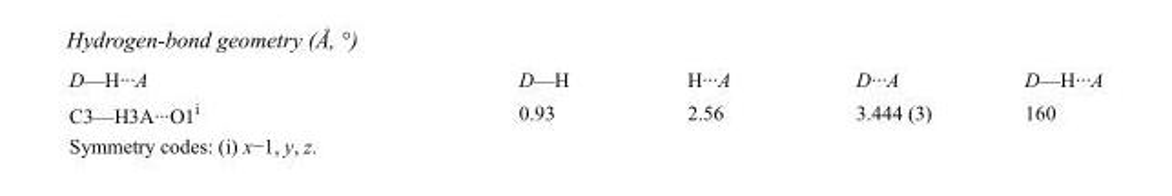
<table><tbody><tr><td>D—H···A</td><td>D—H</td><td>H···A</td><td>D···A</td><td>D—H···A</td></tr><tr><td>C3—H3A···O1<sup>i</sup></td><td>0.93</td><td>2.56</td><td>3.444 (3)</td><td>160</td></tr></tbody></table>